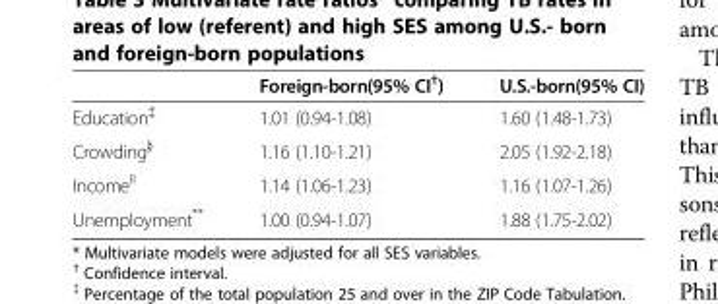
<table><thead><tr><td></td><td>Foreign-born(95% CI<sup>†</sup>)</td><td>U.S.-born(95% CI)</td></tr></thead><tbody><tr><td>Education<sup>‡</sup></td><td>1.01 (0.94-1.08)</td><td>1.60 (1.48-1.73)</td></tr><tr><td>Crowding<sup>§</sup></td><td>1.16 (1.10-1.21)</td><td>2.05 (1.92-2.18)</td></tr><tr><td>Income<sup>ll</sup></td><td>1.14 (1.06-1.23)</td><td>1.16 (1.07-1.26)</td></tr><tr><td>Unemployment**</td><td>1.00 (0.94-1.07)</td><td>1.88 (1.75-2.02)</td></tr></tbody></table>